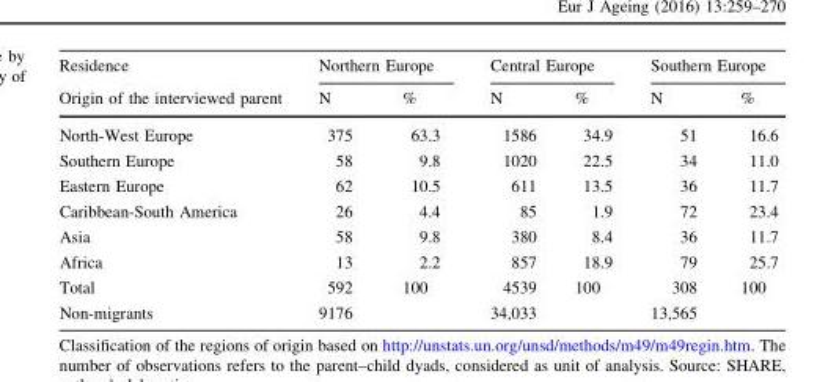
<table><thead><tr><td rowspan="2">Residence Origin of the interviewed parent</td><td colspan="2">Northern Europe</td><td colspan="2">Central Europe</td><td colspan="2">Southern Europe</td></tr><tr><td>N</td><td>%</td><td>N</td><td>%</td><td>N</td><td>%</td></tr></thead><tbody><tr><td>North-West Europe</td><td>375</td><td>63.3</td><td>1586</td><td>34.9</td><td>51</td><td>16.6</td></tr><tr><td>Southern Europe</td><td>58</td><td>9.8</td><td>1020</td><td>22.5</td><td>34</td><td>11.0</td></tr><tr><td>Eastern Europe</td><td>62</td><td>10.5</td><td>611</td><td>13.5</td><td>36</td><td>11.7</td></tr><tr><td>Caribbean-South America</td><td>26</td><td>4.4</td><td>85</td><td>1.9</td><td>72</td><td>23.4</td></tr><tr><td>Asia</td><td>58</td><td>9.8</td><td>380</td><td>8.4</td><td>36</td><td>11.7</td></tr><tr><td>Africa</td><td>13</td><td>2.2</td><td>857</td><td>18.9</td><td>79</td><td>25.7</td></tr><tr><td>Total</td><td>592</td><td>100</td><td>4539</td><td>100</td><td>308</td><td>100</td></tr><tr><td>Non-migrants</td><td>9176</td><td></td><td>34,033</td><td></td><td>13,565</td><td></td></tr></tbody></table>